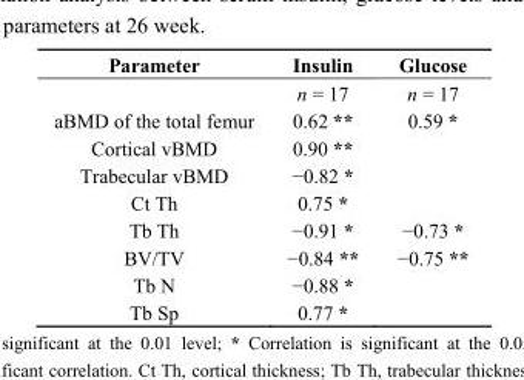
<table><thead><tr><td>Parameter</td><td>Insulin</td><td>Glucose</td></tr></thead><tbody><tr><td></td><td>n = 17</td><td>n = 17</td></tr><tr><td>aBMD of the total femur</td><td>0.62 **</td><td>0.59 *</td></tr><tr><td>Cortical vBMD</td><td>0.90 **</td><td rowspan="2"></td></tr><tr><td>Trabecular vBMD</td><td>−0.82 *</td></tr><tr><td>Ct Th</td><td>0.75 *</td><td></td></tr><tr><td>Tb Th</td><td>−0.91 *</td><td>−0.73 *</td></tr><tr><td>BV/TV</td><td>−0.84 **</td><td>−0.75 **</td></tr><tr><td>Tb N</td><td>−0.88 *</td><td rowspan="2"></td></tr><tr><td>Tb Sp</td><td>0.77 *</td></tr></tbody></table>